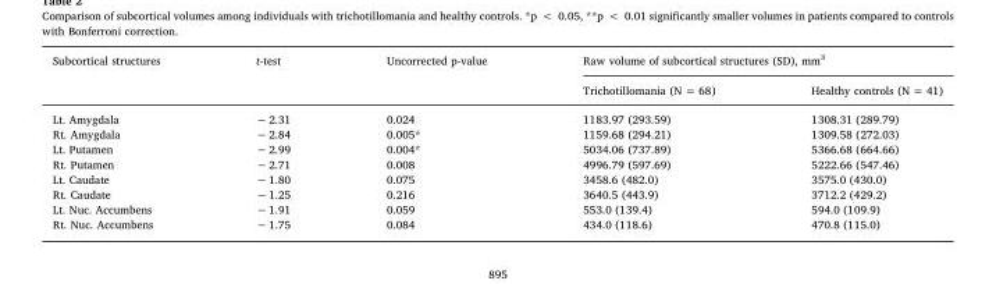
<table><thead><tr><td rowspan="2">Subcortical structures</td><td rowspan="2">t-test</td><td rowspan="2">Uncorrected p-value</td><td colspan="2">Raw volume of subcortical structures (SD), mm<sup>3</sup></td></tr><tr><td>Trichotillomania (N = 68)</td><td>Healthy controls (N = 41)</td></tr></thead><tbody><tr><td>Lt. Amygdala</td><td>−2.31</td><td>0.024</td><td>1183.97 (293.59)</td><td>1308.31 (289.79)</td></tr><tr><td>Rt. Amygdala</td><td>−2.84</td><td>0.005*</td><td>1159.68 (294.21)</td><td>1309.58 (272.03)</td></tr><tr><td>Lt. Putamen</td><td>−2.99</td><td>0.004*</td><td>5034.06 (737.89)</td><td>5366.68 (664.66)</td></tr><tr><td>Rt. Putamen</td><td>−2.71</td><td>0.008</td><td>4996.79 (597.69)</td><td>5222.66 (547.46)</td></tr><tr><td>Lt. Caudate</td><td>−1.80</td><td>0.075</td><td>3458.6 (482.0)</td><td>3575.0 (430.0)</td></tr><tr><td>Rt. Caudate</td><td>−1.25</td><td>0.216</td><td>3640.5 (443.9)</td><td>3712.2 (429.2)</td></tr><tr><td>Lt. Nuc. Accumbens</td><td>−1.91</td><td>0.059</td><td>553.0 (139.4)</td><td>594.0 (109.9)</td></tr><tr><td>Rt. Nuc. Accumbens</td><td>−1.75</td><td>0.084</td><td>434.0 (118.6)</td><td>470.8 (115.0)</td></tr></tbody></table>